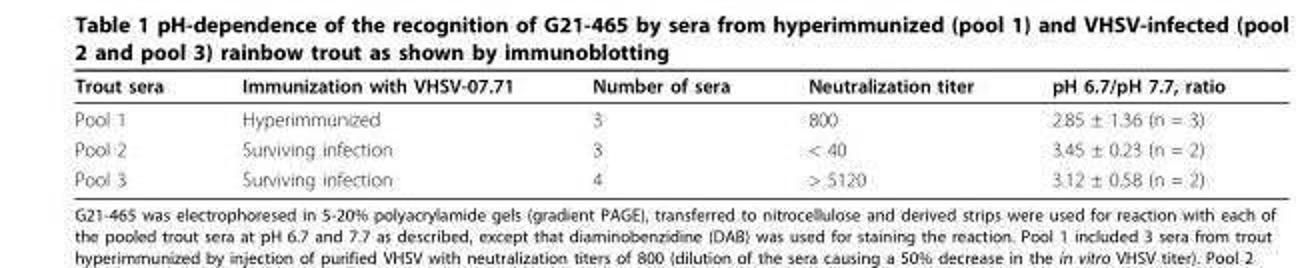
<table><thead><tr><td>Trout sera</td><td>Immunization with VHSV-07.71</td><td>Number of sera</td><td>Neutralization titer</td><td>pH 6.7/pH 7.7, ratio</td></tr></thead><tbody><tr><td>Pool 1</td><td>Hyperimmunized</td><td>3</td><td>800</td><td>2.85 ± 1.36 (n = 3)</td></tr><tr><td>Pool 2</td><td>Surviving infection</td><td>3</td><td>&lt; 40</td><td>3.45 ± 0.23 (n = 2)</td></tr><tr><td>Pool 3</td><td>Surviving infection</td><td>4</td><td>&gt; 5120</td><td>3.12 ± 0.58 (n = 2)</td></tr></tbody></table>